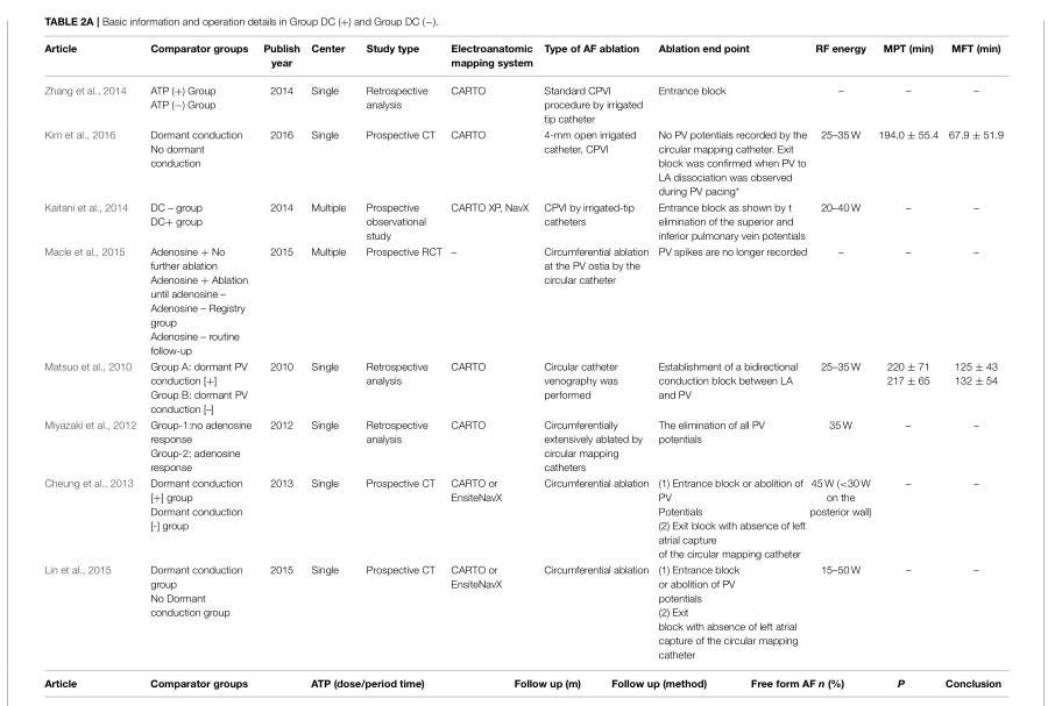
<table><thead><tr><td>Article</td><td>Comparator groups</td><td>Publish year</td><td>Center</td><td>Study type</td><td>Electroanatomic mapping system</td><td>Type of AF ablation</td><td>Ablation end point</td><td>RF energy</td><td>MPT (min)</td><td>MFT (min)</td></tr></thead><tbody><tr><td>Zhang et al., 2014</td><td>ATP (+) Group ATP (−) Group</td><td>2014</td><td>Single</td><td>Retrospective analysis</td><td>CARTO</td><td>Standard CPVI procedure by irrigated tip catheter</td><td>Entrance block</td><td>–</td><td>–</td><td>–</td></tr><tr><td>Kim et al., 2016</td><td>Dormant conduction No dormant conduction</td><td>2016</td><td>Single</td><td>Prospective CT</td><td>CARTO</td><td>4-mm open irrigated catheter, CPVI</td><td>No PV potentials recorded by the circular mapping catheter. Exit block was confirmed when PV to LA dissociation was observed during PV pacing*</td><td>25–35 W</td><td>194.0 ± 55.4</td><td>67.9 ± 51.9</td></tr><tr><td>Kaitani et al., 2014</td><td>DC – group DC+ group</td><td>2014</td><td>Multiple</td><td>Prospective observational study</td><td>CARTO XP, NavX</td><td>CPVI by irrigated-tip catheters</td><td>Entrance block as shown by t elimination of the superior and inferior pulmonary vein potentials</td><td>20–40 W</td><td>–</td><td>–</td></tr><tr><td>Macle et al., 2015</td><td>Adenosine + No further ablation Adenosine + Ablation until adenosine – Adenosine – Registry group Adenosine – routine follow-up</td><td>2015</td><td>Multiple</td><td>Prospective RCT</td><td>–</td><td>Circumferential ablation at the PV ostia by the circular catheter</td><td>PV spikes are no longer recorded</td><td>–</td><td>–</td><td>–</td></tr><tr><td>Matsuo et al., 2010</td><td>Group A: dormant PV conduction [+] Group B: dormant PV conduction [–]</td><td>2010</td><td>Single</td><td>Retrospective analysis</td><td>CARTO</td><td>Circular catheter venography was performed</td><td>Establishment of a bidirectional conduction block between LA and PV</td><td>25–35 W</td><td>220 ± 71 217 ± 65</td><td>125 ± 43 132 ± 54</td></tr><tr><td>Miyazaki et al., 2012</td><td>Group-1:no adenosine response Group-2: adenosine response</td><td>2012</td><td>Single</td><td>Retrospective analysis</td><td>CARTO</td><td>Circumferentially extensively ablated by circular mapping catheters</td><td>The elimination of all PV potentials</td><td>35 W</td><td>–</td><td>–</td></tr><tr><td>Cheung et al., 2013</td><td>Dormant conduction [+] group Dormant conduction [-] group</td><td>2013</td><td>Single</td><td>Prospective CT</td><td>CARTO or EnsiteNavX</td><td>Circumferential ablation</td><td>(1) Entrance block or abolition of PV Potentials (2) Exit block with absence of left atrial capture of the circular mapping catheter</td><td>45 W (&lt;30 W on the posterior wall)</td><td>–</td><td>–</td></tr><tr><td>Lin et al., 2015</td><td>Dormant conduction group No Dormant conduction group</td><td>2015</td><td>Single</td><td>Prospective CT</td><td>CARTO or EnsiteNavX</td><td>Circumferential ablation</td><td>(1) Entrance block or abolition of PV potentials (2) Exit block with absence of left atrial capture of the circular mapping catheter</td><td>15–50 W</td><td>–</td><td>–</td></tr></tbody></table>